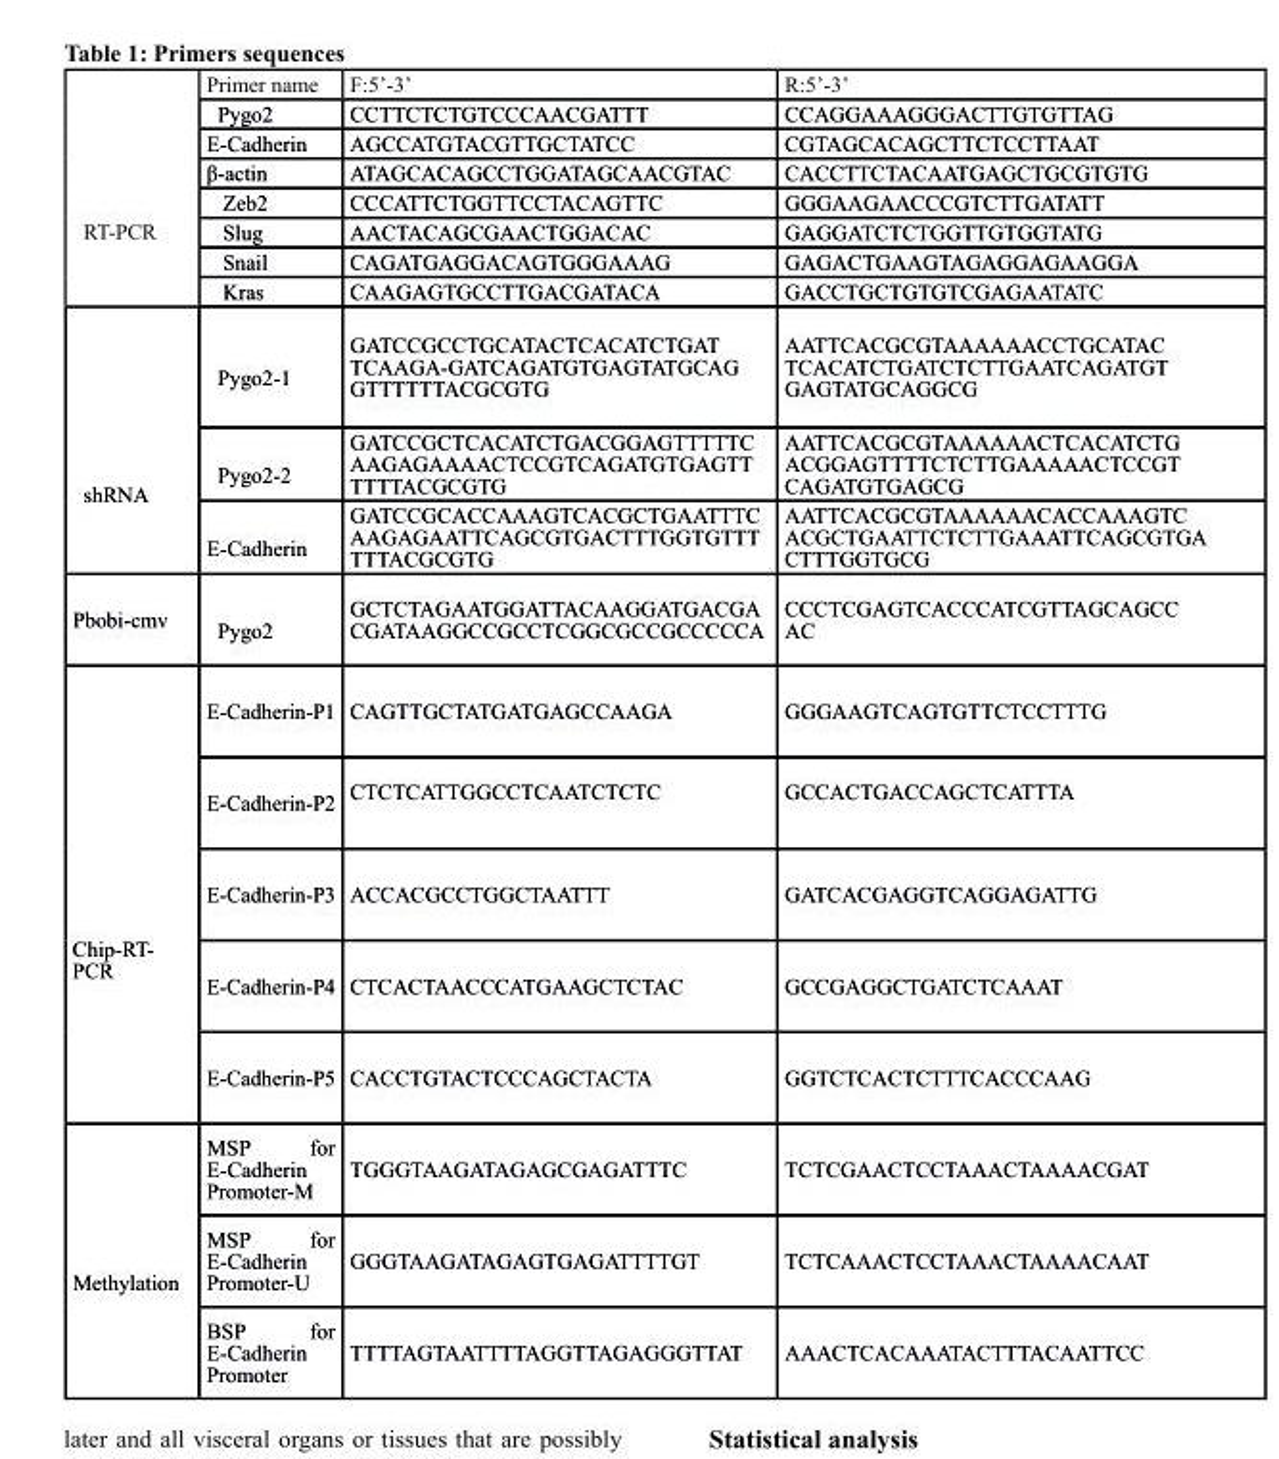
<table><tbody><tr><td rowspan="8">RT-PCR</td><td>Primer name</td><td>F:5’-3’</td><td>R:5’-3’</td></tr><tr><td>Pygo2</td><td>CCTTCTCTGTCCCAACGATTT</td><td>CCAGGAAAGGGACTTGTGTTAG</td></tr><tr><td>E-Cadherin</td><td>AGCCATGTACGTTGCTATCC</td><td>CGTAGCACAGCTTCTCCTTAAT</td></tr><tr><td>β-actin</td><td>ATAGCACAGCCTGGATAGCAACGTAC</td><td>CACCTTCTACAATGAGCTGCGTGTG</td></tr><tr><td>Zeb2</td><td>CCCATTCTGGTTCCTACAGTTC</td><td>GGGAAGAACCCGTCTTGATATT</td></tr><tr><td>Slug</td><td>AACTACAGCGAACTGGACAC</td><td>GAGGATCTCTGGTTGTGGTATG</td></tr><tr><td>Snail</td><td>CAGATGAGGACAGTGGGAAAG</td><td>GAGACTGAAGTAGAGGAGAAGGA</td></tr><tr><td>Kras</td><td>CAAGAGTGCCTTGACGATACA</td><td>GACCTGCTGTGTCGAGAATATC</td></tr><tr><td rowspan="3">shRNA</td><td>Pygo2-1</td><td>GATCCGCCTGCATACTCACATCTGAT TCAAGA-GATCAGATGTGAGTATGCAG GTTTTTTACGCGTG</td><td>AATTCACGCGTAAAAAACCTGCATAC TCACATCTGATCTCTTGAATCAGATGT GAGTATGCAGGCG</td></tr><tr><td>Pygo2-2</td><td>GATCCGCTCACATCTGACGGAGTTTTTC AAGAGAAAACTCCGTCAGATGTGAGTT TTTTACGCGTG</td><td>AATTCACGCGTAAAAAACTCACATCTG ACGGAGTTTTCTCTTGAAAAACTCCGT CAGATGTGAGCG</td></tr><tr><td>E-Cadherin</td><td>GATCCGCACCAAAGTCACGCTGAATTTC AAGAGAATTCAGCGTGACTTTGGTGTTT TTTACGCGTG</td><td>AATTCACGCGTAAAAAACACCAAAGTC ACGCTGAATTCTCTTGAAATTCAGCGTGA CTTTGGTGCG</td></tr><tr><td>Pbobi-cmv</td><td>Pygo2</td><td>GCTCTAGAATGGATTACAAGGATGACGA CGATAAGGCCGCCTCGGCGCCGCCCCCA</td><td>CCCTCGAGTCACCCATCGTTAGCAGCC AC</td></tr><tr><td rowspan="5">Chip-RT- PCR</td><td>E-Cadherin-P1</td><td>CAGTTGCTATGATGAGCCAAGA</td><td>GGGAAGTCAGTGTTCTCCTTTG</td></tr><tr><td>E-Cadherin-P2</td><td>CTCTCATTGGCCTCAATCTCTC</td><td>GCCACTGACCAGCTCATTTA</td></tr><tr><td>E-Cadherin-P3</td><td>ACCACGCCTGGCTAATTT</td><td>GATCACGAGGTCAGGAGATTG</td></tr><tr><td>E-Cadherin-P4</td><td>CTCACTAACCCATGAAGCTCTAC</td><td>GCCGAGGCTGATCTCAAAT</td></tr><tr><td>E-Cadherin-P5</td><td>CACCTGTACTCCCAGCTACTA</td><td>GGTCTCACTCTTTCACCCAAG</td></tr><tr><td rowspan="3">Methylation</td><td>MSP for E-Cadherin Promoter-M</td><td>TGGGTAAGATAGAGCGAGATTTC</td><td>TCTCGAACTCCTAAACTAAAACGAT</td></tr><tr><td>MSP for E-Cadherin Promoter-U</td><td>GGGTAAGATAGAGTGAGATTTTGT</td><td>TCTCAAACTCCTAAACTAAAACAAT</td></tr><tr><td>BSP for E-Cadherin Promoter</td><td>TTTTAGTAATTTTAGGTTAGAGGGTTAT</td><td>AAACTCACAAATACTTTACAATTCC</td></tr></tbody></table>